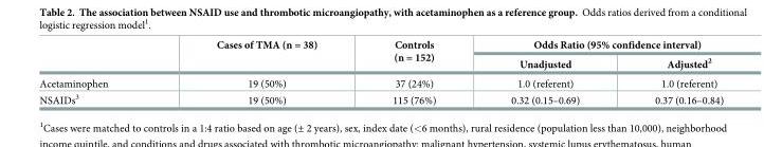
<table><thead><tr><td rowspan="2"></td><td rowspan="2">Cases of TMA (n = 38)</td><td rowspan="2">Controls (n = 152)</td><td colspan="2">Odds Ratio (95% confidence interval)</td></tr><tr><td>Unadjusted</td><td>Adjusted<sup>2</sup></td></tr></thead><tbody><tr><td>Acetaminophen</td><td>19 (50%)</td><td>37 (24%)</td><td>1.0 (referent)</td><td>1.0 (referent)</td></tr><tr><td>NSAIDs<sup>3</sup></td><td>19 (50%)</td><td>115 (76%)</td><td>0.32 (0.15–0.69)</td><td>0.37 (0.16–0.84)</td></tr></tbody></table>